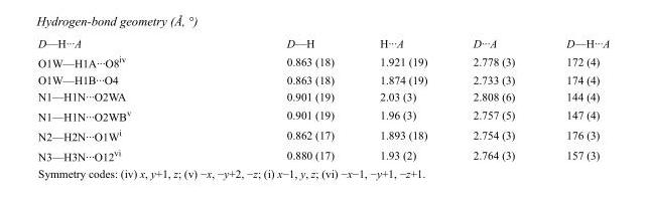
<table><tbody><tr><td>D—H···A</td><td>D—H</td><td>H···A</td><td>D···A</td><td>D—H···A</td></tr><tr><td>O1W—H1A···O8<sup>iv</sup></td><td>0.863 (18)</td><td>1.921 (19)</td><td>2.778 (3)</td><td>172 (4)</td></tr><tr><td>O1W—H1B···O4</td><td>0.863 (18)</td><td>1.874 (19)</td><td>2.733 (3)</td><td>174 (4)</td></tr><tr><td>N1—H1N···O2WA</td><td>0.901 (19)</td><td>2.03 (3)</td><td>2.808 (6)</td><td>144 (4)</td></tr><tr><td>N1—H1N···O2WB<sup>v</sup></td><td>0.901 (19)</td><td>1.96 (3)</td><td>2.757 (5)</td><td>147 (4)</td></tr><tr><td>N2—H2N···O1W<sup>i</sup></td><td>0.862 (17)</td><td>1.893 (18)</td><td>2.754 (3)</td><td>176 (3)</td></tr><tr><td>N3—H3N···O12<sup>vi</sup></td><td>0.880 (17)</td><td>1.93 (2)</td><td>2.764 (3)</td><td>157 (3)</td></tr></tbody></table>